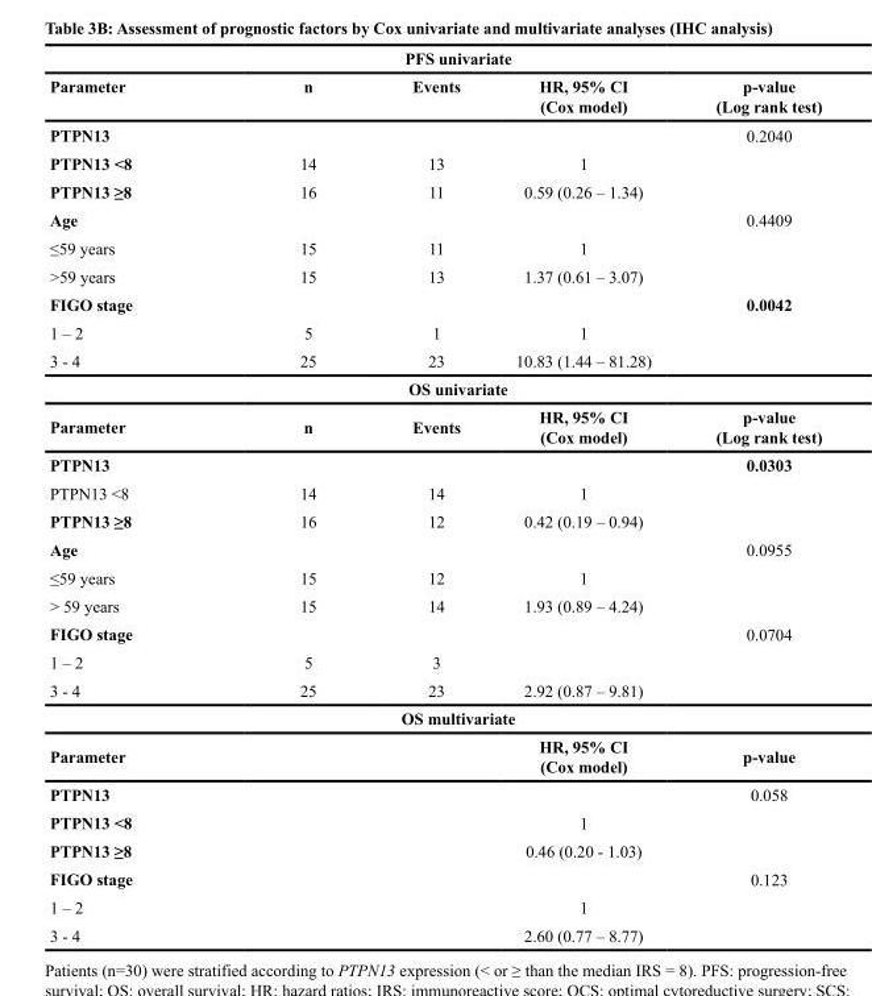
<table><thead><tr><td colspan="5">PFS univariate</td></tr><tr><td>Parameter</td><td>n</td><td>Events</td><td>HR, 95% CI (Cox model)</td><td>p-value (Log rank test)</td></tr></thead><tbody><tr><td>PTPN13</td><td></td><td></td><td></td><td>0.2040</td></tr><tr><td>PTPN13 &lt;8</td><td>14</td><td>13</td><td>1</td><td></td></tr><tr><td>PTPN13 ≥8</td><td>16</td><td>11</td><td>0.59 (0.26 – 1.34)</td><td></td></tr><tr><td>Age</td><td></td><td></td><td></td><td>0.4409</td></tr><tr><td>≤59 years</td><td>15</td><td>11</td><td>1</td><td></td></tr><tr><td>&gt;59 years</td><td>15</td><td>13</td><td>1.37 (0.61 – 3.07)</td><td></td></tr><tr><td>FIGO stage</td><td></td><td></td><td></td><td>0.0042</td></tr><tr><td>1 – 2</td><td>5</td><td>1</td><td>1</td><td></td></tr><tr><td>3 - 4</td><td>25</td><td>23</td><td>10.83 (1.44 – 81.28)</td><td></td></tr><tr><td colspan="5">OS univariate</td></tr><tr><td>Parameter</td><td>n</td><td>Events</td><td>HR, 95% CI (Cox model)</td><td>p-value (Log rank test)</td></tr><tr><td>PTPN13</td><td></td><td></td><td></td><td>0.0303</td></tr><tr><td>PTPN13 &lt;8</td><td>14</td><td>14</td><td>1</td><td></td></tr><tr><td>PTPN13 ≥8</td><td>16</td><td>12</td><td>0.42 (0.19 – 0.94)</td><td></td></tr><tr><td>Age</td><td></td><td></td><td></td><td>0.0955</td></tr><tr><td>≤59 years</td><td>15</td><td>12</td><td>1</td><td></td></tr><tr><td>&gt; 59 years</td><td>15</td><td>14</td><td>1.93 (0.89 – 4.24)</td><td></td></tr><tr><td>FIGO stage</td><td></td><td></td><td></td><td>0.0704</td></tr><tr><td>1 – 2</td><td>5</td><td>3</td><td></td><td></td></tr><tr><td>3 - 4</td><td>25</td><td>23</td><td>2.92 (0.87 – 9.81)</td><td></td></tr><tr><td colspan="5">OS multivariate</td></tr><tr><td>Parameter</td><td></td><td></td><td>HR, 95% CI (Cox model)</td><td>p-value</td></tr><tr><td>PTPN13</td><td></td><td></td><td></td><td>0.058</td></tr><tr><td>PTPN13 &lt;8</td><td></td><td></td><td>1</td><td></td></tr><tr><td>PTPN13 ≥8</td><td></td><td></td><td>0.46 (0.20 - 1.03)</td><td></td></tr><tr><td>FIGO stage</td><td></td><td></td><td></td><td>0.123</td></tr><tr><td>1 – 2</td><td></td><td></td><td>1</td><td></td></tr><tr><td>3 - 4</td><td></td><td></td><td>2.60 (0.77 – 8.77)</td><td></td></tr></tbody></table>